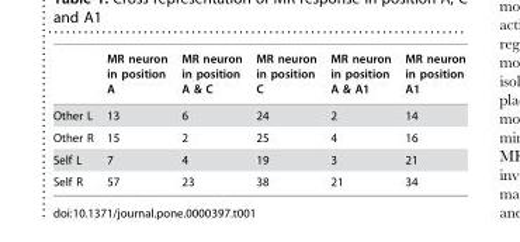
<table><thead><tr><td></td><td>MR neuron in position A</td><td>MR neuron in position A &amp; C</td><td>MR neuron in position C</td><td>MR neuron in position A &amp; A1</td><td>MR neuron in position A1</td></tr></thead><tbody><tr><td>Other L</td><td>13</td><td>6</td><td>24</td><td>2</td><td>14</td></tr><tr><td>Other R</td><td>15</td><td>2</td><td>25</td><td>4</td><td>16</td></tr><tr><td>Self L</td><td>7</td><td>4</td><td>19</td><td>3</td><td>21</td></tr><tr><td>Self R</td><td>57</td><td>23</td><td>38</td><td>21</td><td>34</td></tr></tbody></table>